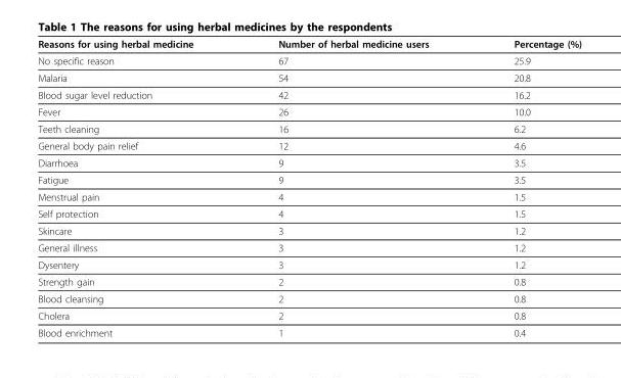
<table><thead><tr><td>Reasons for using herbal medicine</td><td>Number of herbal medicine users</td><td>Percentage (%)</td></tr></thead><tbody><tr><td>No specific reason</td><td>67</td><td>25.9</td></tr><tr><td>Malaria</td><td>54</td><td>20.8</td></tr><tr><td>Blood sugar level reduction</td><td>42</td><td>16.2</td></tr><tr><td>Fever</td><td>26</td><td>10.0</td></tr><tr><td>Teeth cleaning</td><td>16</td><td>6.2</td></tr><tr><td>General body pain relief</td><td>12</td><td>4.6</td></tr><tr><td>Diarrhoea</td><td>9</td><td>3.5</td></tr><tr><td>Fatigue</td><td>9</td><td>3.5</td></tr><tr><td>Menstrual pain</td><td>4</td><td>1.5</td></tr><tr><td>Self protection</td><td>4</td><td>1.5</td></tr><tr><td>Skincare</td><td>3</td><td>1.2</td></tr><tr><td>General illness</td><td>3</td><td>1.2</td></tr><tr><td>Dysentery</td><td>3</td><td>1.2</td></tr><tr><td>Strength gain</td><td>2</td><td>0.8</td></tr><tr><td>Blood cleansing</td><td>2</td><td>0.8</td></tr><tr><td>Cholera</td><td>2</td><td>0.8</td></tr><tr><td>Blood enrichment</td><td>1</td><td>0.4</td></tr></tbody></table>